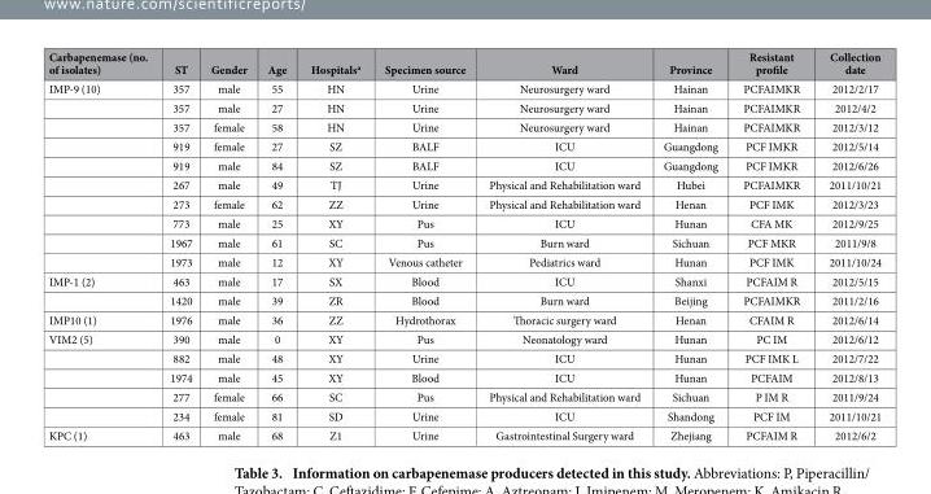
<table><thead><tr><td>Carbapenemase (no. of isolates)</td><td>ST</td><td>Gender</td><td>Age</td><td>Hospitals<sup>a</sup></td><td>Specimen source</td><td>Ward</td><td>Province</td><td>Resistant profile</td><td>Collection date</td></tr></thead><tbody><tr><td rowspan="10">IMP-9 (10)</td><td>357</td><td>male</td><td>55</td><td>HN</td><td>Urine</td><td>Neurosurgery ward</td><td>Hainan</td><td>PCFAIMKR</td><td>2012/2/17</td></tr><tr><td>357</td><td>male</td><td>27</td><td>HN</td><td>Urine</td><td>Neurosurgery ward</td><td>Hainan</td><td>PCFAIMKR</td><td>2012/4/2</td></tr><tr><td>357</td><td>female</td><td>58</td><td>HN</td><td>Urine</td><td>Neurosurgery ward</td><td>Hainan</td><td>PCFAIMKR</td><td>2012/3/12</td></tr><tr><td>919</td><td>female</td><td>27</td><td>SZ</td><td>BALF</td><td>ICU</td><td>Guangdong</td><td>PCF IMKR</td><td>2012/5/14</td></tr><tr><td>919</td><td>male</td><td>84</td><td>SZ</td><td>BALF</td><td>ICU</td><td>Guangdong</td><td>PCF IMKR</td><td>2012/6/26</td></tr><tr><td>267</td><td>male</td><td>49</td><td>TJ</td><td>Urine</td><td>Physical and Rehabilitation ward</td><td>Hubei</td><td>PCFAIMKR</td><td>2011/10/21</td></tr><tr><td>273</td><td>female</td><td>62</td><td>ZZ</td><td>Urine</td><td>Physical and Rehabilitation ward</td><td>Henan</td><td>PCF IMK</td><td>2012/3/23</td></tr><tr><td>773</td><td>male</td><td>25</td><td>XY</td><td>Pus</td><td>ICU</td><td>Hunan</td><td>CFA MK</td><td>2012/9/25</td></tr><tr><td>1967</td><td>male</td><td>61</td><td>SC</td><td>Pus</td><td>Burn ward</td><td>Sichuan</td><td>PCF MKR</td><td>2011/9/8</td></tr><tr><td>1973</td><td>male</td><td>12</td><td>XY</td><td>Venous catheter</td><td>Pediatrics ward</td><td>Hunan</td><td>PCF IMK</td><td>2011/10/24</td></tr><tr><td rowspan="2">IMP-1 (2)</td><td>463</td><td>male</td><td>17</td><td>SX</td><td>Blood</td><td>ICU</td><td>Shanxi</td><td>PCFAIM R</td><td>2012/5/15</td></tr><tr><td>1420</td><td>male</td><td>39</td><td>ZR</td><td>Blood</td><td>Burn ward</td><td>Beijing</td><td>PCFAIMKR</td><td>2011/2/16</td></tr><tr><td>IMP10 (1)</td><td>1976</td><td>male</td><td>36</td><td>ZZ</td><td>Hydrothorax</td><td>Thoracic surgery ward</td><td>Henan</td><td>CFAIM R</td><td>2012/6/14</td></tr><tr><td rowspan="5">VIM2 (5)</td><td>390</td><td>male</td><td>0</td><td>XY</td><td>Pus</td><td>Neonatology ward</td><td>Hunan</td><td>PC IM</td><td>2012/6/12</td></tr><tr><td>882</td><td>male</td><td>48</td><td>XY</td><td>Urine</td><td>ICU</td><td>Hunan</td><td>PCF IMK L</td><td>2012/7/22</td></tr><tr><td>1974</td><td>male</td><td>45</td><td>XY</td><td>Blood</td><td>ICU</td><td>Hunan</td><td>PCFAIM</td><td>2012/8/13</td></tr><tr><td>277</td><td>female</td><td>66</td><td>SC</td><td>Pus</td><td>Physical and Rehabilitation ward</td><td>Sichuan</td><td>P IM R</td><td>2011/9/24</td></tr><tr><td>234</td><td>female</td><td>81</td><td>SD</td><td>Urine</td><td>ICU</td><td>Shandong</td><td>PCF IM</td><td>2011/10/21</td></tr><tr><td>KPC (1)</td><td>463</td><td>male</td><td>68</td><td>Z1</td><td>Urine</td><td>Gastrointestinal Surgery ward</td><td>Zhejiang</td><td>PCFAIM R</td><td>2012/6/2</td></tr></tbody></table>